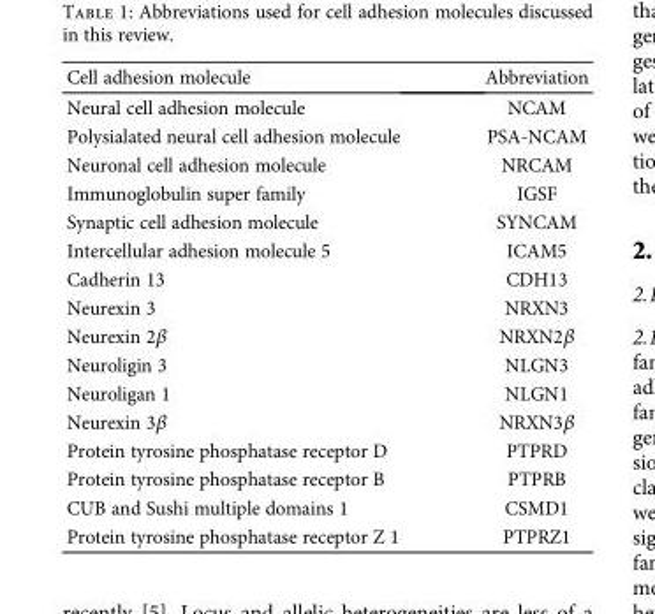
<table><thead><tr><td>Cell adhesion molecule</td><td>Abbreviation</td></tr></thead><tbody><tr><td>Neural cell adhesion molecule</td><td>NCAM</td></tr><tr><td>Polysialated neural cell adhesion molecule</td><td>PSA-NCAM</td></tr><tr><td>Neuronal cell adhesion molecule</td><td>NRCAM</td></tr><tr><td>Immunoglobulin super family</td><td>IGSF</td></tr><tr><td>Synaptic cell adhesion molecule</td><td>SYNCAM</td></tr><tr><td>Intercellular adhesion molecule 5</td><td>ICAM5</td></tr><tr><td>Cadherin 13</td><td>CDH13</td></tr><tr><td>Neurexin 3</td><td>NRXN3</td></tr><tr><td>Neurexin 2β</td><td>NRXN2β</td></tr><tr><td>Neuroligin 3</td><td>NLGN3</td></tr><tr><td>Neuroligan 1</td><td>NLGN1</td></tr><tr><td>Neurexin 3β</td><td>NRXN3β</td></tr><tr><td>Protein tyrosine phosphatase receptor D</td><td>PTPRD</td></tr><tr><td>Protein tyrosine phosphatase receptor B</td><td>PTPRB</td></tr><tr><td>CUB and Sushi multiple domains 1</td><td>CSMD1</td></tr><tr><td>Protein tyrosine phosphatase receptor Z 1</td><td>PTPRZ1</td></tr></tbody></table>